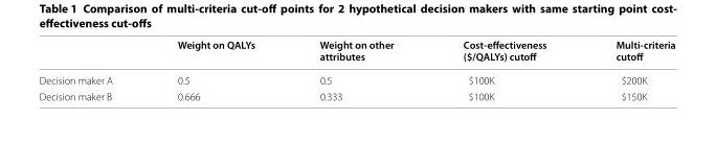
<table><thead><tr><td></td><td>Weight on QALYs</td><td>Weight on other attributes</td><td>Cost-effectiveness ($/QALYs) cutoff</td><td>Multi-criteria cutoff</td></tr></thead><tbody><tr><td>Decision maker A</td><td>0.5</td><td>0.5</td><td>$100K</td><td>$200K</td></tr><tr><td>Decision maker B</td><td>0.666</td><td>0.333</td><td>$100K</td><td>$150K</td></tr></tbody></table>